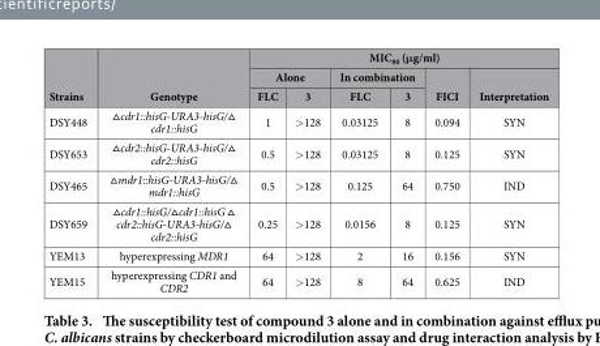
<table><thead><tr><td rowspan="3">Strains</td><td rowspan="3">Genotype</td><td colspan="6">MIC<sub>80</sub> (μg/ml)</td></tr><tr><td colspan="2">Alone</td><td colspan="2">In combination</td><td rowspan="2">FICI</td><td rowspan="2">Interpretation</td></tr><tr><td>FLC</td><td>3</td><td>FLC</td><td>3</td></tr></thead><tbody><tr><td>DSY448</td><td>▵ cdr1::hisG-URA3-hisG/▵ cdr1::hisG</td><td>1</td><td>&gt; 128</td><td>0.03125</td><td>8</td><td>0.094</td><td>SYN</td></tr><tr><td>DSY653</td><td>▵ cdr2::hisG-URA3-hisG/▵ cdr2::hisG</td><td>0.5</td><td>&gt; 128</td><td>0.03125</td><td>8</td><td>0.125</td><td>SYN</td></tr><tr><td>DSY465</td><td>▵ mdr1::hisG-URA3-hisG/▵ mdr1::hisG</td><td>0.5</td><td>&gt; 128</td><td>0.125</td><td>64</td><td>0.750</td><td>IND</td></tr><tr><td>DSY659</td><td>▵ cdr1::hisG/▵ cdr1::hisG ▵ cdr2::hisG-URA3-hisG/▵ cdr2::hisG</td><td>0.25</td><td>&gt; 128</td><td>0.0156</td><td>8</td><td>0.125</td><td>SYN</td></tr><tr><td>YEM13</td><td>hyperexpressing MDR1</td><td>64</td><td>&gt; 128</td><td>2</td><td>16</td><td>0.156</td><td>SYN</td></tr><tr><td>YEM15</td><td>hyperexpressing CDR1 and CDR2</td><td>64</td><td>&gt; 128</td><td>8</td><td>64</td><td>0.625</td><td>IND</td></tr></tbody></table>